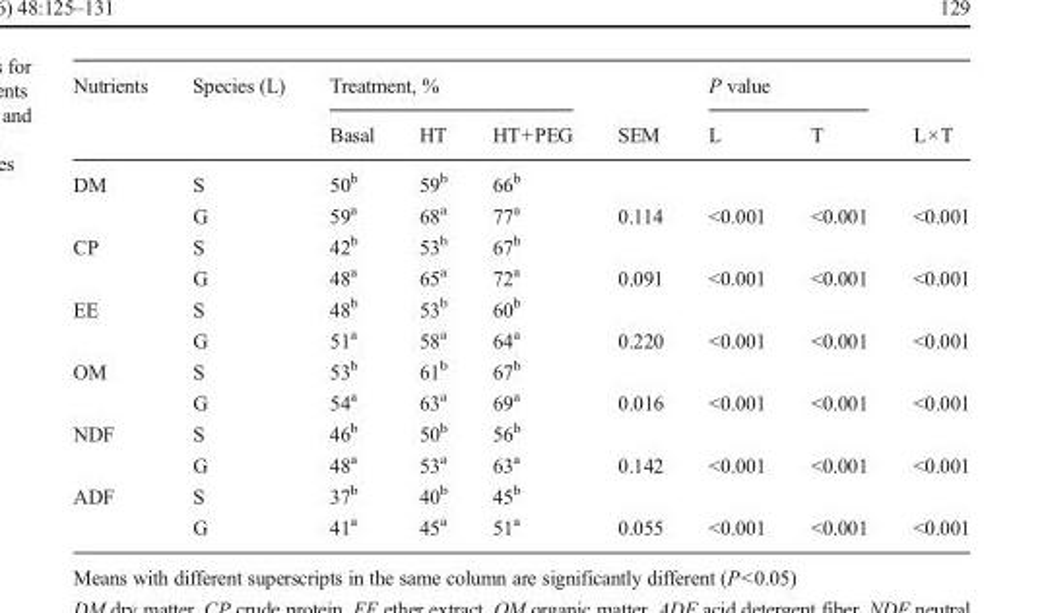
<table><thead><tr><td rowspan="2">Nutrients</td><td rowspan="2">Species (L)</td><td colspan="3">Treatment, %</td><td rowspan="2">SEM</td><td colspan="2">P value</td><td rowspan="2">L×T</td></tr><tr><td>Basal</td><td>HT</td><td>HT+PEG</td><td>L</td><td>T</td></tr></thead><tbody><tr><td rowspan="2">DM</td><td>S</td><td>50<sup>b</sup></td><td>59<sup>b</sup></td><td>66<sup>b</sup></td><td></td><td></td><td></td><td></td></tr><tr><td>G</td><td>59<sup>a</sup></td><td>68<sup>a</sup></td><td>77<sup>a</sup></td><td>0.114</td><td>&lt;0.001</td><td>&lt;0.001</td><td>&lt;0.001</td></tr><tr><td rowspan="2">CP</td><td>S</td><td>42<sup>b</sup></td><td>53<sup>b</sup></td><td>67<sup>b</sup></td><td></td><td></td><td></td><td></td></tr><tr><td>G</td><td>48<sup>a</sup></td><td>65<sup>a</sup></td><td>72<sup>a</sup></td><td>0.091</td><td>&lt;0.001</td><td>&lt;0.001</td><td>&lt;0.001</td></tr><tr><td rowspan="2">EE</td><td>S</td><td>48<sup>b</sup></td><td>53<sup>b</sup></td><td>60<sup>b</sup></td><td></td><td></td><td></td><td></td></tr><tr><td>G</td><td>51<sup>a</sup></td><td>58<sup>a</sup></td><td>64<sup>a</sup></td><td>0.220</td><td>&lt;0.001</td><td>&lt;0.001</td><td>&lt;0.001</td></tr><tr><td rowspan="2">OM</td><td>S</td><td>53<sup>b</sup></td><td>61<sup>b</sup></td><td>67<sup>b</sup></td><td></td><td></td><td></td><td></td></tr><tr><td>G</td><td>54<sup>a</sup></td><td>63<sup>a</sup></td><td>69<sup>a</sup></td><td>0.016</td><td>&lt;0.001</td><td>&lt;0.001</td><td>&lt;0.001</td></tr><tr><td rowspan="2">NDF</td><td>S</td><td>46<sup>b</sup></td><td>50<sup>b</sup></td><td>56<sup>b</sup></td><td></td><td></td><td></td><td></td></tr><tr><td>G</td><td>48<sup>a</sup></td><td>53<sup>a</sup></td><td>63<sup>a</sup></td><td>0.142</td><td>&lt;0.001</td><td>&lt;0.001</td><td>&lt;0.001</td></tr><tr><td rowspan="2">ADF</td><td>S</td><td>37<sup>b</sup></td><td>40<sup>b</sup></td><td>45<sup>b</sup></td><td></td><td></td><td></td><td></td></tr><tr><td>G</td><td>41<sup>a</sup></td><td>45<sup>a</sup></td><td>51<sup>a</sup></td><td>0.055</td><td>&lt;0.001</td><td>&lt;0.001</td><td>&lt;0.001</td></tr></tbody></table>